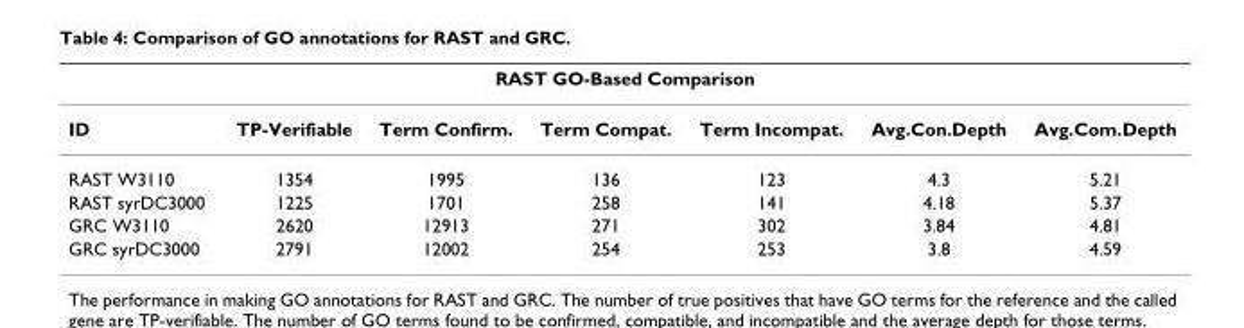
<table><thead><tr><td colspan="7">RAST GO-Based Comparison</td></tr><tr><td>ID</td><td>TP-Verifiable</td><td>Term Confirm.</td><td>Term Compat.</td><td>Term Incompat.</td><td>Avg.Con.Depth</td><td>Avg.Com.Depth</td></tr></thead><tbody><tr><td>RAST W3110</td><td>1354</td><td>1995</td><td>136</td><td>123</td><td>4.3</td><td>5.21</td></tr><tr><td>RAST syrDC3000</td><td>1225</td><td>1701</td><td>258</td><td>141</td><td>4.18</td><td>5.37</td></tr><tr><td>GRC W3110</td><td>2620</td><td>12913</td><td>271</td><td>302</td><td>3.84</td><td>4.81</td></tr><tr><td>GRC syrDC3000</td><td>2791</td><td>12002</td><td>254</td><td>253</td><td>3.8</td><td>4.59</td></tr></tbody></table>